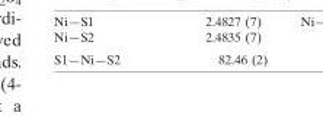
<table><tbody><tr><td>S1—Ni—S2</td><td>82.46 (2)</td></tr></tbody></table>